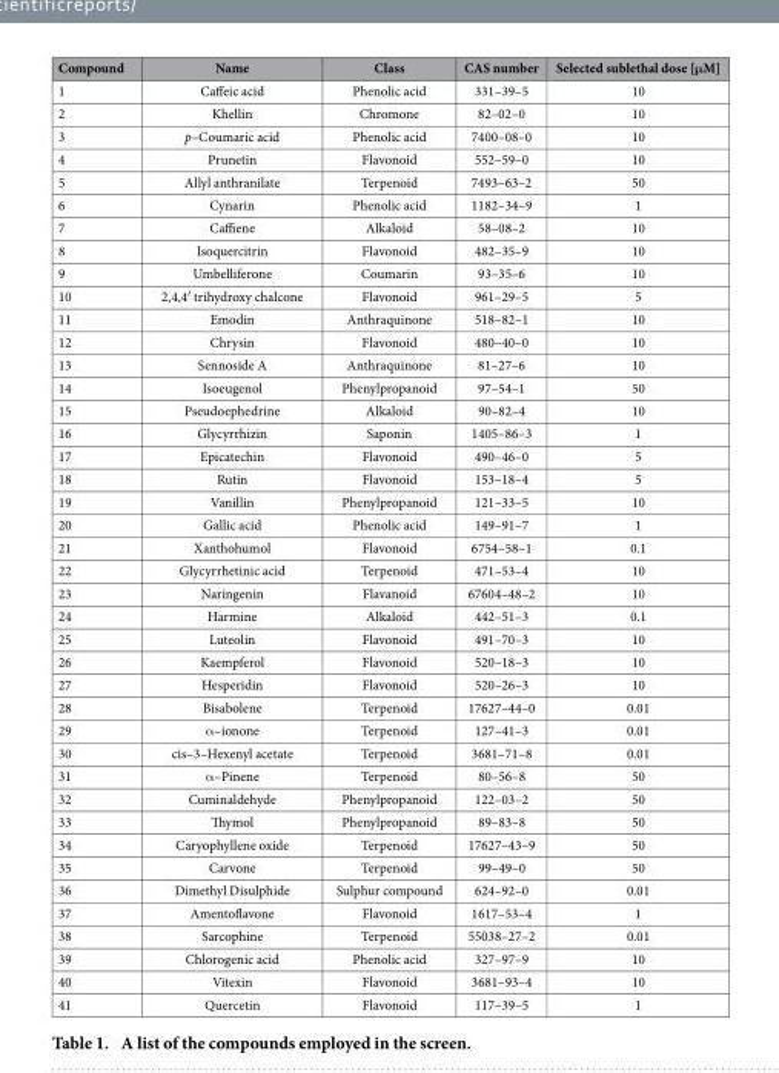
<table><thead><tr><td>Compound</td><td>Name</td><td>Class</td><td>CAS number</td><td>Selected sublethal dose [μM]</td></tr></thead><tbody><tr><td>1</td><td>Caffeic acid</td><td>Phenolic acid</td><td>331–39–5</td><td>10</td></tr><tr><td>2</td><td>Khellin</td><td>Chromone</td><td>82–02–0</td><td>10</td></tr><tr><td>3</td><td>p–Coumaric acid</td><td>Phenolic acid</td><td>7400–08–0</td><td>10</td></tr><tr><td>4</td><td>Prunetin</td><td>Flavonoid</td><td>552–59–0</td><td>10</td></tr><tr><td>5</td><td>Allyl anthranilate</td><td>Terpenoid</td><td>7493–63–2</td><td>50</td></tr><tr><td>6</td><td>Cynarin</td><td>Phenolic acid</td><td>1182–34–9</td><td>1</td></tr><tr><td>7</td><td>Caffiene</td><td>Alkaloid</td><td>58–08–2</td><td>10</td></tr><tr><td>8</td><td>Isoquercitrin</td><td>Flavonoid</td><td>482–35–9</td><td>10</td></tr><tr><td>9</td><td>Umbelliferone</td><td>Coumarin</td><td>93–35–6</td><td>10</td></tr><tr><td>10</td><td>2,4,4′ trihydroxy chalcone</td><td>Flavonoid</td><td>961–29–5</td><td>5</td></tr><tr><td>11</td><td>Emodin</td><td>Anthraquinone</td><td>518–82–1</td><td>10</td></tr><tr><td>12</td><td>Chrysin</td><td>Flavonoid</td><td>480–40–0</td><td>10</td></tr><tr><td>13</td><td>Sennoside A</td><td>Anthraquinone</td><td>81–27–6</td><td>10</td></tr><tr><td>14</td><td>Isoeugenol</td><td>Phenylpropanoid</td><td>97–54–1</td><td>50</td></tr><tr><td>15</td><td>Pseudoephedrine</td><td>Alkaloid</td><td>90–82–4</td><td>10</td></tr><tr><td>16</td><td>Glycyrrhizin</td><td>Saponin</td><td>1405–86–3</td><td>1</td></tr><tr><td>17</td><td>Epicatechin</td><td>Flavonoid</td><td>490–46–0</td><td>5</td></tr><tr><td>18</td><td>Rutin</td><td>Flavonoid</td><td>153–18–4</td><td>5</td></tr><tr><td>19</td><td>Vanillin</td><td>Phenylpropanoid</td><td>121–33–5</td><td>10</td></tr><tr><td>20</td><td>Gallic acid</td><td>Phenolic acid</td><td>149–91–7</td><td>1</td></tr><tr><td>21</td><td>Xanthohumol</td><td>Flavonoid</td><td>6754–58–1</td><td>0.1</td></tr><tr><td>22</td><td>Glycyrrhetinic acid</td><td>Terpenoid</td><td>471–53–4</td><td>10</td></tr><tr><td>23</td><td>Naringenin</td><td>Flavanoid</td><td>67604–48–2</td><td>10</td></tr><tr><td>24</td><td>Harmine</td><td>Alkaloid</td><td>442–51–3</td><td>0.1</td></tr><tr><td>25</td><td>Luteolin</td><td>Flavonoid</td><td>491–70–3</td><td>10</td></tr><tr><td>26</td><td>Kaempferol</td><td>Flavonoid</td><td>520–18–3</td><td>10</td></tr><tr><td>27</td><td>Hesperidin</td><td>Flavonoid</td><td>520–26–3</td><td>10</td></tr><tr><td>28</td><td>Bisabolene</td><td>Terpenoid</td><td>17627–44–0</td><td>0.01</td></tr><tr><td>29</td><td>α –ionone</td><td>Terpenoid</td><td>127–41–3</td><td>0.01</td></tr><tr><td>30</td><td>cis–3–Hexenyl acetate</td><td>Terpenoid</td><td>3681–71–8</td><td>0.01</td></tr><tr><td>31</td><td>α –Pinene</td><td>Terpenoid</td><td>80–56–8</td><td>50</td></tr><tr><td>32</td><td>Cuminaldehyde</td><td>Phenylpropanoid</td><td>122–03–2</td><td>50</td></tr><tr><td>33</td><td>Thymol</td><td>Phenylpropanoid</td><td>89–83–8</td><td>50</td></tr><tr><td>34</td><td>Caryophyllene oxide</td><td>Terpenoid</td><td>17627–43–9</td><td>50</td></tr><tr><td>35</td><td>Carvone</td><td>Terpenoid</td><td>99–49–0</td><td>50</td></tr><tr><td>36</td><td>Dimethyl Disulphide</td><td>Sulphur compound</td><td>624–92–0</td><td>0.01</td></tr><tr><td>37</td><td>Amentoflavone</td><td>Flavonoid</td><td>1617–53–4</td><td>1</td></tr><tr><td>38</td><td>Sarcophine</td><td>Terpenoid</td><td>55038–27–2</td><td>0.01</td></tr><tr><td>39</td><td>Chlorogenic acid</td><td>Phenolic acid</td><td>327–97–9</td><td>10</td></tr><tr><td>40</td><td>Vitexin</td><td>Flavonoid</td><td>3681–93–4</td><td>10</td></tr><tr><td>41</td><td>Quercetin</td><td>Flavonoid</td><td>117–39–5</td><td>1</td></tr></tbody></table>